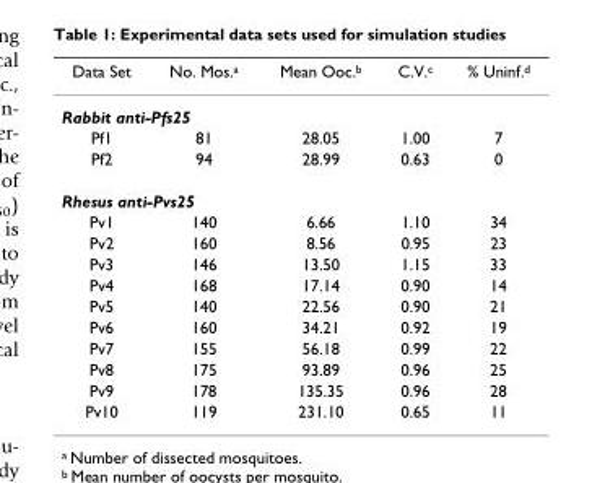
<table><thead><tr><td>Data Set</td><td>No. Mos.<sup>a</sup></td><td>Mean Ooc.<sup>b</sup></td><td>C.V.<sup>c</sup></td><td>% Uninf.<sup>d</sup></td></tr></thead><tbody><tr><td colspan="5">Rabbit anti-Pfs25</td></tr><tr><td>Pf1</td><td>81</td><td>28.05</td><td>1.00</td><td>7</td></tr><tr><td>Pf2</td><td>94</td><td>28.99</td><td>0.63</td><td>0</td></tr><tr><td colspan="5">Rhesus anti-Pvs25</td></tr><tr><td>Pv1</td><td>140</td><td>6.66</td><td>1.10</td><td>34</td></tr><tr><td>Pv2</td><td>160</td><td>8.56</td><td>0.95</td><td>23</td></tr><tr><td>Pv3</td><td>146</td><td>13.50</td><td>1.15</td><td>33</td></tr><tr><td>Pv4</td><td>168</td><td>17.14</td><td>0.90</td><td>14</td></tr><tr><td>Pv5</td><td>140</td><td>22.56</td><td>0.90</td><td>21</td></tr><tr><td>Pv6</td><td>160</td><td>34.21</td><td>0.92</td><td>19</td></tr><tr><td>Pv7</td><td>155</td><td>56.18</td><td>0.99</td><td>22</td></tr><tr><td>Pv8</td><td>175</td><td>93.89</td><td>0.96</td><td>25</td></tr><tr><td>Pv9</td><td>178</td><td>135.35</td><td>0.96</td><td>28</td></tr><tr><td>Pv10</td><td>119</td><td>231.10</td><td>0.65</td><td>11</td></tr></tbody></table>